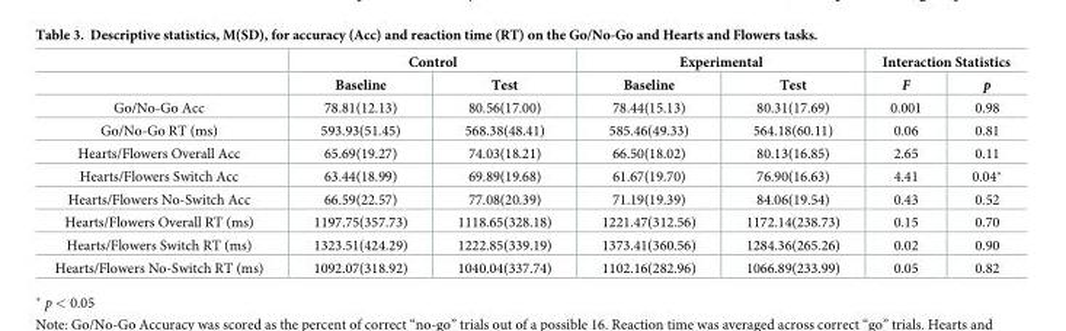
<table><thead><tr><td rowspan="2"></td><td colspan="2">Control</td><td colspan="2">Experimental</td><td colspan="2">Interaction Statistics</td></tr><tr><td>Baseline</td><td>Test</td><td>Baseline</td><td>Test</td><td>F</td><td>p</td></tr></thead><tbody><tr><td>Go/No-Go Acc</td><td>78.81(12.13)</td><td>80.56(17.00)</td><td>78.44(15.13)</td><td>80.31(17.69)</td><td>0.001</td><td>0.98</td></tr><tr><td>Go/No-Go RT (ms)</td><td>593.93(51.45)</td><td>568.38(48.41)</td><td>585.46(49.33)</td><td>564.18(60.11)</td><td>0.06</td><td>0.81</td></tr><tr><td>Hearts/Flowers Overall Acc</td><td>65.69(19.27)</td><td>74.03(18.21)</td><td>66.50(18.02)</td><td>80.13(16.85)</td><td>2.65</td><td>0.11</td></tr><tr><td>Hearts/Flowers Switch Acc</td><td>63.44(18.99)</td><td>69.89(19.68)</td><td>61.67(19.70)</td><td>76.90(16.63)</td><td>4.41</td><td>0.04*</td></tr><tr><td>Hearts/Flowers No-Switch Acc</td><td>66.59(22.57)</td><td>77.08(20.39)</td><td>71.19(19.39)</td><td>84.06(19.54)</td><td>0.43</td><td>0.52</td></tr><tr><td>Hearts/Flowers Overall RT (ms)</td><td>1197.75(357.73)</td><td>1118.65(328.18)</td><td>1221.47(312.56)</td><td>1172.14(238.73)</td><td>0.15</td><td>0.70</td></tr><tr><td>Hearts/Flowers Switch RT (ms)</td><td>1323.51(424.29)</td><td>1222.85(339.19)</td><td>1373.41(360.56)</td><td>1284.36(265.26)</td><td>0.02</td><td>0.90</td></tr><tr><td>Hearts/Flowers No-Switch RT (ms)</td><td>1092.07(318.92)</td><td>1040.04(337.74)</td><td>1102.16(282.96)</td><td>1066.89(233.99)</td><td>0.05</td><td>0.82</td></tr></tbody></table>